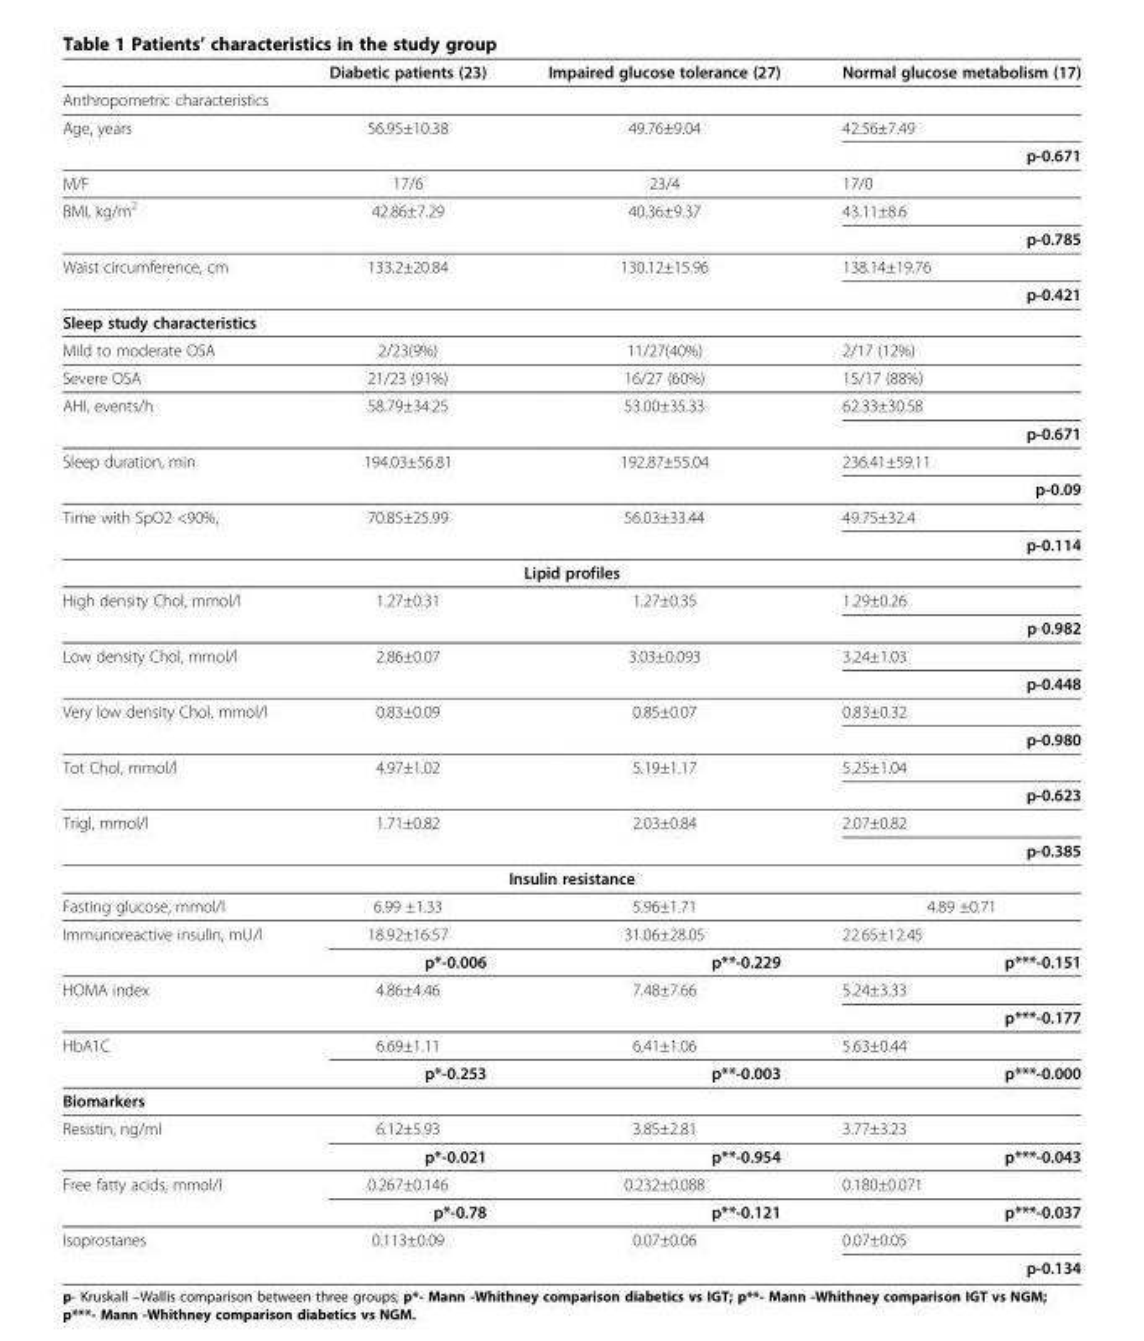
<table><thead><tr><td></td><td>Diabetic patients (23)</td><td>Impaired glucose tolerance (27)</td><td>Normal glucose metabolism (17)</td></tr></thead><tbody><tr><td colspan="4">Anthropometric characteristics</td></tr><tr><td rowspan="2">Age, years</td><td rowspan="2">56.95±10.38</td><td rowspan="2">49.76±9.04</td><td>42.56±7.49</td></tr><tr><td>p-0.671</td></tr><tr><td>M/F</td><td>17/6</td><td>23/4</td><td>17/0</td></tr><tr><td rowspan="2">BMI, kg/m<sup>2</sup></td><td rowspan="2">42.86±7.29</td><td rowspan="2">40.36±9.37</td><td>43.11±8.6</td></tr><tr><td>p-0.785</td></tr><tr><td rowspan="2">Waist circumference, cm</td><td rowspan="2">133.2±20.84</td><td rowspan="2">130.12±15.96</td><td>138.14±19.76</td></tr><tr><td>p-0.421</td></tr><tr><td colspan="4">Sleep study characteristics</td></tr><tr><td>Mild to moderate OSA</td><td>2/23(9%)</td><td>11/27(40%)</td><td>2/17 (12%)</td></tr><tr><td>Severe OSA</td><td>21/23 (91%)</td><td>16/27 (60%)</td><td>15/17 (88%)</td></tr><tr><td rowspan="2">AHI, events/h</td><td rowspan="2">58.79±34.25</td><td rowspan="2">53.00±35.33</td><td>62.33±30.58</td></tr><tr><td>p-0.671</td></tr><tr><td rowspan="2">Sleep duration, min</td><td rowspan="2">194.03±56.81</td><td rowspan="2">192.87±55.04</td><td>236.41±59.11</td></tr><tr><td>p-0.09</td></tr><tr><td rowspan="2">Time with SpO2 &lt;90%,</td><td rowspan="2">70.85±25.99</td><td rowspan="2">56.03±33.44</td><td>49.75±32.4</td></tr><tr><td>p-0.114</td></tr><tr><td colspan="4">Lipid profiles</td></tr><tr><td rowspan="2">High density Chol, mmol/l</td><td rowspan="2">1.27±0.31</td><td rowspan="2">1.27±0.35</td><td>1.29±0.26</td></tr><tr><td>p-0.982</td></tr><tr><td rowspan="2">Low density Chol, mmol/l</td><td rowspan="2">2.86±0.07</td><td rowspan="2">3.03±0.093</td><td>3.24±1.03</td></tr><tr><td>p-0.448</td></tr><tr><td rowspan="2">Very low density Chol, mmol/l</td><td rowspan="2">0.83±0.09</td><td rowspan="2">0.85±0.07</td><td>0.83±0.32</td></tr><tr><td>p-0.980</td></tr><tr><td rowspan="2">Tot Chol, mmol/l</td><td rowspan="2">4.97±1.02</td><td rowspan="2">5.19±1.17</td><td>5.25±1.04</td></tr><tr><td>p-0.623</td></tr><tr><td rowspan="2">Trigl, mmol/l</td><td rowspan="2">1.71±0.82</td><td rowspan="2">2.03±0.84</td><td>2.07±0.82</td></tr><tr><td>p-0.385</td></tr><tr><td colspan="4">Insulin resistance</td></tr><tr><td>Fasting glucose, mmol/l</td><td>6.99 ±1.33</td><td>5.96±1.71</td><td>4.89 ±0.71</td></tr><tr><td rowspan="2">Immunoreactive insulin, mU/l</td><td>18.92±16.57</td><td>31.06±28.05</td><td>22.65±12.45</td></tr><tr><td>p*-0.006</td><td>p**-0.229</td><td>p***-0.151</td></tr><tr><td rowspan="2">HOMA index</td><td rowspan="2">4.86±4.46</td><td rowspan="2">7.48±7.66</td><td>5.24±3.33</td></tr><tr><td>p***-0.177</td></tr><tr><td rowspan="2">HbA1C</td><td>6.69±1.11</td><td>6.41±1.06</td><td>5.63±0.44</td></tr><tr><td>p*-0.253</td><td>p**-0.003</td><td>p***-0.000</td></tr><tr><td colspan="4">Biomarkers</td></tr><tr><td rowspan="2">Resistin, ng/ml</td><td>6.12±5.93</td><td>3.85±2.81</td><td>3.77±3.23</td></tr><tr><td>p*-0.021</td><td>p**-0.954</td><td>p***-0.043</td></tr><tr><td rowspan="2">Free fatty acids, mmol/l</td><td>0.267±0.146</td><td>0.232±0.088</td><td>0.180±0.071</td></tr><tr><td>p*-0.78</td><td>p**-0.121</td><td>p***-0.037</td></tr><tr><td rowspan="2">Isoprostanes</td><td rowspan="2">0.113±0.09</td><td rowspan="2">0.07±0.06</td><td>0.07±0.05</td></tr><tr><td>p-0.134</td></tr></tbody></table>